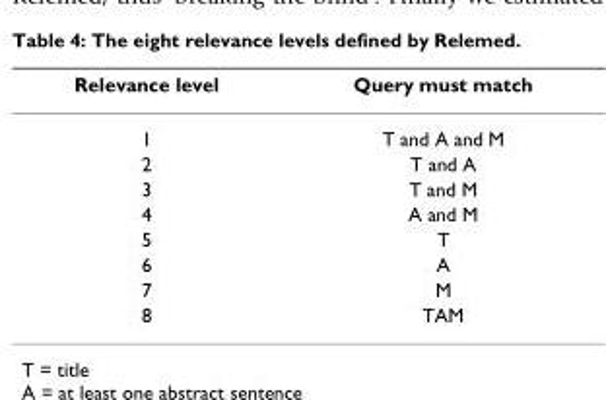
<table><thead><tr><td>Relevance level</td><td>Query must match</td></tr></thead><tbody><tr><td>1</td><td>T and A and M</td></tr><tr><td>2</td><td>T and A</td></tr><tr><td>3</td><td>T and M</td></tr><tr><td>4</td><td>A and M</td></tr><tr><td>5</td><td>T</td></tr><tr><td>6</td><td>A</td></tr><tr><td>7</td><td>M</td></tr><tr><td>8</td><td>TAM</td></tr></tbody></table>